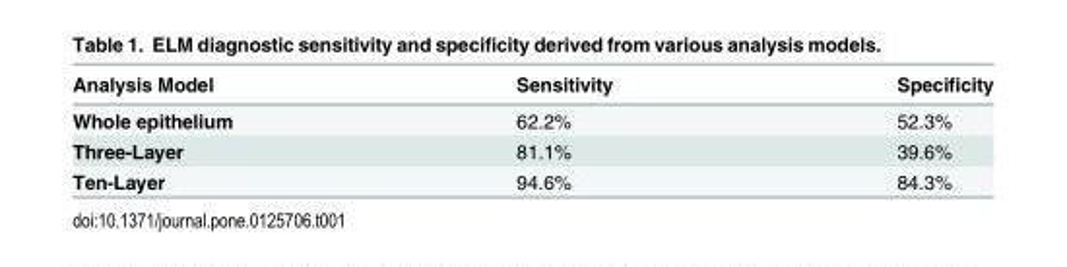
<table><thead><tr><td>Analysis Model</td><td>Sensitivity</td><td>Specificity</td></tr></thead><tbody><tr><td>Whole epithelium</td><td>62.2%</td><td>52.3%</td></tr><tr><td>Three-Layer</td><td>81.1%</td><td>39.6%</td></tr><tr><td>Ten-Layer</td><td>94.6%</td><td>84.3%</td></tr></tbody></table>